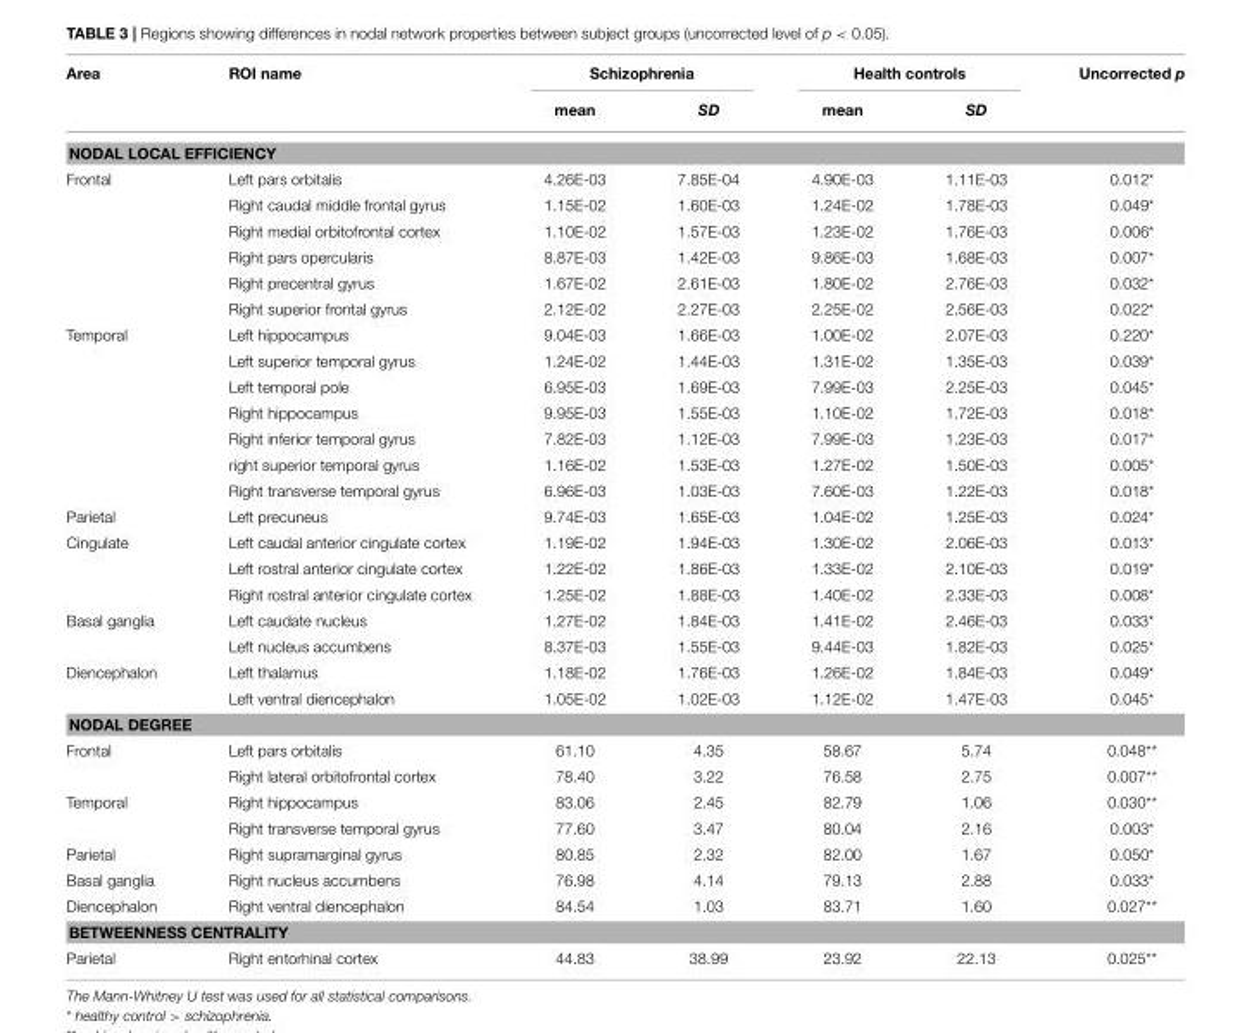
<table><thead><tr><td rowspan="2">Area</td><td rowspan="2">ROI name</td><td colspan="2">Schizophrenia</td><td colspan="2">Health controls</td><td rowspan="2">Uncorrected p</td></tr><tr><td>mean</td><td>SD</td><td>mean</td><td>SD</td></tr></thead><tbody><tr><td colspan="7">NODAL LOCAL EFFICIENCY</td></tr><tr><td rowspan="6">Frontal</td><td>Left pars orbitalis</td><td>4.26E-03</td><td>7.85E-04</td><td>4.90E-03</td><td>1.11E-03</td><td>0.012*</td></tr><tr><td>Right caudal middle frontal gyrus</td><td>1.15E-02</td><td>1.60E-03</td><td>1.24E-02</td><td>1.78E-03</td><td>0.049*</td></tr><tr><td>Right medial orbitofrontal cortex</td><td>1.10E-02</td><td>1.57E-03</td><td>1.23E-02</td><td>1.76E-03</td><td>0.006*</td></tr><tr><td>Right pars opercularis</td><td>8.87E-03</td><td>1.42E-03</td><td>9.86E-03</td><td>1.68E-03</td><td>0.007*</td></tr><tr><td>Right precentral gyrus</td><td>1.67E-02</td><td>2.61E-03</td><td>1.80E-02</td><td>2.76E-03</td><td>0.032*</td></tr><tr><td>Right superior frontal gyrus</td><td>2.12E-02</td><td>2.27E-03</td><td>2.25E-02</td><td>2.56E-03</td><td>0.022*</td></tr><tr><td rowspan="7">Temporal</td><td>Left hippocampus</td><td>9.04E-03</td><td>1.66E-03</td><td>1.00E-02</td><td>2.07E-03</td><td>0.220*</td></tr><tr><td>Left superior temporal gyrus</td><td>1.24E-02</td><td>1.44E-03</td><td>1.31E-02</td><td>1.35E-03</td><td>0.039*</td></tr><tr><td>Left temporal pole</td><td>6.95E-03</td><td>1.69E-03</td><td>7.99E-03</td><td>2.25E-03</td><td>0.045*</td></tr><tr><td>Right hippocampus</td><td>9.95E-03</td><td>1.55E-03</td><td>1.10E-02</td><td>1.72E-03</td><td>0.018*</td></tr><tr><td>Right inferior temporal gyrus</td><td>7.82E-03</td><td>1.12E-03</td><td>7.99E-03</td><td>1.23E-03</td><td>0.017*</td></tr><tr><td>right superior temporal gyrus</td><td>1.16E-02</td><td>1.53E-03</td><td>1.27E-02</td><td>1.50E-03</td><td>0.005*</td></tr><tr><td>Right transverse temporal gyrus</td><td>6.96E-03</td><td>1.03E-03</td><td>7.60E-03</td><td>1.22E-03</td><td>0.018*</td></tr><tr><td>Parietal</td><td>Left precuneus</td><td>9.74E-03</td><td>1.65E-03</td><td>1.04E-02</td><td>1.25E-03</td><td>0.024*</td></tr><tr><td rowspan="3">Cingulate</td><td>Left caudal anterior cingulate cortex</td><td>1.19E-02</td><td>1.94E-03</td><td>1.30E-02</td><td>2.06E-03</td><td>0.013*</td></tr><tr><td>Left rostral anterior cingulate cortex</td><td>1.22E-02</td><td>1.86E-03</td><td>1.33E-02</td><td>2.10E-03</td><td>0.019*</td></tr><tr><td>Right rostral anterior cingulate cortex</td><td>1.25E-02</td><td>1.88E-03</td><td>1.40E-02</td><td>2.33E-03</td><td>0.008*</td></tr><tr><td rowspan="2">Basal ganglia</td><td>Left caudate nucleus</td><td>1.27E-02</td><td>1.84E-03</td><td>1.41E-02</td><td>2.46E-03</td><td>0.033*</td></tr><tr><td>Left nucleus accumbens</td><td>8.37E-03</td><td>1.55E-03</td><td>9.44E-03</td><td>1.82E-03</td><td>0.025*</td></tr><tr><td rowspan="2">Diencephalon</td><td>Left thalamus</td><td>1.18E-02</td><td>1.76E-03</td><td>1.26E-02</td><td>1.84E-03</td><td>0.049*</td></tr><tr><td>Left ventral diencephalon</td><td>1.05E-02</td><td>1.02E-03</td><td>1.12E-02</td><td>1.47E-03</td><td>0.045*</td></tr><tr><td colspan="7">NODAL DEGREE</td></tr><tr><td rowspan="2">Frontal</td><td>Left pars orbitalis</td><td>61.10</td><td>4.35</td><td>58.67</td><td>5.74</td><td>0.048**</td></tr><tr><td>Right lateral orbitofrontal cortex</td><td>78.40</td><td>3.22</td><td>76.58</td><td>2.75</td><td>0.007**</td></tr><tr><td rowspan="2">Temporal</td><td>Right hippocampus</td><td>83.06</td><td>2.45</td><td>82.79</td><td>1.06</td><td>0.030**</td></tr><tr><td>Right transverse temporal gyrus</td><td>77.60</td><td>3.47</td><td>80.04</td><td>2.16</td><td>0.003*</td></tr><tr><td>Parietal</td><td>Right supramarginal gyrus</td><td>80.85</td><td>2.32</td><td>82.00</td><td>1.67</td><td>0.050*</td></tr><tr><td>Basal ganglia</td><td>Right nucleus accumbens</td><td>76.98</td><td>4.14</td><td>79.13</td><td>2.88</td><td>0.033*</td></tr><tr><td>Diencephalon</td><td>Right ventral diencephalon</td><td>84.54</td><td>1.03</td><td>83.71</td><td>1.60</td><td>0.027**</td></tr><tr><td colspan="7">BETWEENNESS CENTRALITY</td></tr><tr><td>Parietal</td><td>Right entorhinal cortex</td><td>44.83</td><td>38.99</td><td>23.92</td><td>22.13</td><td>0.025**</td></tr></tbody></table>